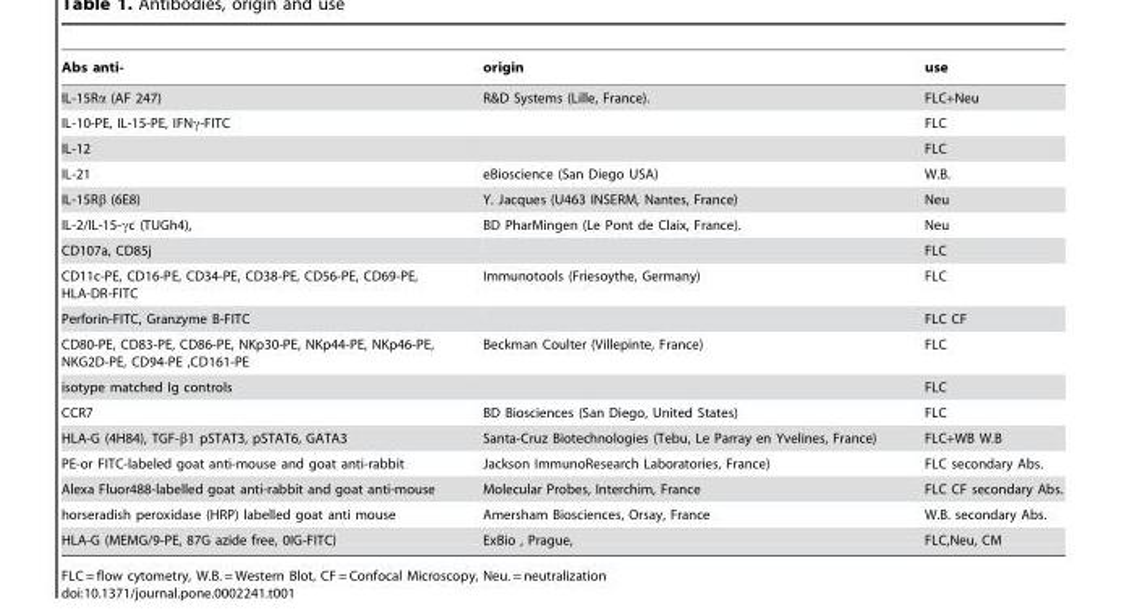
<table><thead><tr><td>Abs anti-</td><td>origin</td><td>use</td></tr></thead><tbody><tr><td>IL-15Rα (AF 247)</td><td>R&amp;D Systems (Lille, France).</td><td>FLC+Neu</td></tr><tr><td>IL-10-PE, IL-15-PE, IFNγ-FITC</td><td></td><td>FLC</td></tr><tr><td>IL-12</td><td></td><td>FLC</td></tr><tr><td>IL-21</td><td>eBioscience (San Diego USA)</td><td>W.B.</td></tr><tr><td>IL-15Rβ (6E8)</td><td>Y. Jacques (U463 INSERM, Nantes, France)</td><td>Neu</td></tr><tr><td>IL-2/IL-15-γc (TUGh4),</td><td>BD PharMingen (Le Pont de Claix, France).</td><td>Neu</td></tr><tr><td>CD107a, CD85j</td><td></td><td>FLC</td></tr><tr><td>CD11c-PE, CD16-PE, CD34-PE, CD38-PE, CD56-PE, CD69-PE, HLA-DR-FITC</td><td>Immunotools (Friesoythe, Germany)</td><td>FLC</td></tr><tr><td>Perforin-FITC, Granzyme B-FITC</td><td></td><td>FLC CF</td></tr><tr><td>CD80-PE, CD83-PE, CD86-PE, NKp30-PE, NKp44-PE, NKp46-PE, NKG2D-PE, CD94-PE ,CD161-PE</td><td>Beckman Coulter (Villepinte, France)</td><td>FLC</td></tr><tr><td>isotype matched Ig controls</td><td></td><td>FLC</td></tr><tr><td>CCR7</td><td>BD Biosciences (San Diego, United States)</td><td>FLC</td></tr><tr><td>HLA-G (4H84), TGF-β1 pSTAT3, pSTAT6, GATA3</td><td>Santa-Cruz Biotechnologies (Tebu, Le Parray en Yvelines, France)</td><td>FLC+WB W.B</td></tr><tr><td>PE-or FITC-labeled goat anti-mouse and goat anti-rabbit</td><td>Jackson ImmunoResearch Laboratories, France)</td><td>FLC secondary Abs.</td></tr><tr><td>Alexa Fluor488-labelled goat anti-rabbit and goat anti-mouse</td><td>Molecular Probes, Interchim, France</td><td>FLC CF secondary Abs.</td></tr><tr><td>horseradish peroxidase (HRP) labelled goat anti mouse</td><td>Amersham Biosciences, Orsay, France</td><td>W.B. secondary Abs.</td></tr><tr><td>HLA-G (MEMG/9-PE, 87G azide free, 0IG-FITC)</td><td>ExBio , Prague,</td><td>FLC,Neu, CM</td></tr></tbody></table>